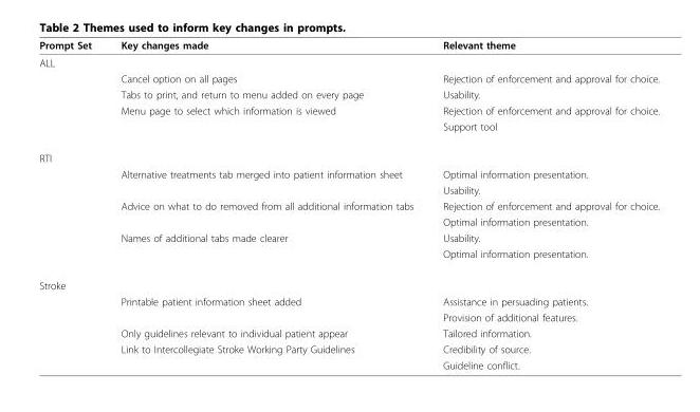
<table><thead><tr><td>Prompt Set</td><td>Key changes made</td><td>Relevant theme</td></tr></thead><tbody><tr><td colspan="3">ALL</td></tr><tr><td></td><td>Cancel option on all pages</td><td>Rejection of enforcement and approval for choice.</td></tr><tr><td></td><td>Tabs to print, and return to menu added on every page</td><td>Usability.</td></tr><tr><td></td><td>Menu page to select which information is viewed</td><td>Rejection of enforcement and approval for choice.</td></tr><tr><td></td><td></td><td>Support tool</td></tr><tr><td colspan="3">RTI</td></tr><tr><td></td><td>Alternative treatments tab merged into patient information sheet</td><td>Optimal information presentation.</td></tr><tr><td></td><td></td><td>Usability.</td></tr><tr><td></td><td>Advice on what to do removed from all additional information tabs</td><td>Rejection of enforcement and approval for choice.</td></tr><tr><td></td><td></td><td>Optimal information presentation.</td></tr><tr><td></td><td>Names of additional tabs made clearer</td><td>Usability.</td></tr><tr><td></td><td></td><td>Optimal information presentation.</td></tr><tr><td colspan="3">Stroke</td></tr><tr><td></td><td>Printable patient information sheet added</td><td>Assistance in persuading patients.</td></tr><tr><td></td><td></td><td>Provision of additional features.</td></tr><tr><td></td><td>Only guidelines relevant to individual patient appear</td><td>Tailored information.</td></tr><tr><td></td><td>Link to Intercollegiate Stroke Working Party Guidelines</td><td>Credibility of source.</td></tr><tr><td></td><td></td><td>Guideline conflict.</td></tr></tbody></table>